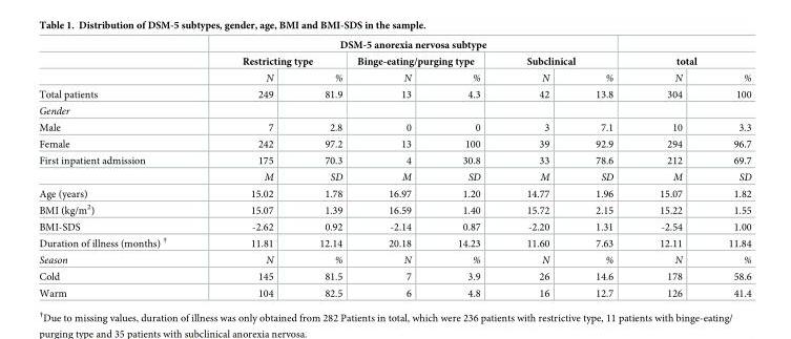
<table><thead><tr><td rowspan="3"></td><td colspan="6">DSM-5 anorexia nervosa subtype</td><td></td><td></td></tr><tr><td colspan="2">Restricting type</td><td colspan="2">Binge-eating/purging type</td><td colspan="2">Subclinical</td><td colspan="2">total</td></tr><tr><td>N</td><td>%</td><td>N</td><td>%</td><td>N</td><td>%</td><td>N</td><td>%</td></tr></thead><tbody><tr><td>Total patients</td><td>249</td><td>81.9</td><td>13</td><td>4.3</td><td>42</td><td>13.8</td><td>304</td><td>100</td></tr><tr><td colspan="9">Gender</td></tr><tr><td>Male</td><td>7</td><td>2.8</td><td>0</td><td>0</td><td>3</td><td>7.1</td><td>10</td><td>3.3</td></tr><tr><td>Female</td><td>242</td><td>97.2</td><td>13</td><td>100</td><td>39</td><td>92.9</td><td>294</td><td>96.7</td></tr><tr><td rowspan="2">First inpatient admission</td><td>175</td><td>70.3</td><td>4</td><td>30.8</td><td>33</td><td>78.6</td><td>212</td><td>69.7</td></tr><tr><td>M</td><td>SD</td><td>M</td><td>SD</td><td>M</td><td>SD</td><td>M</td><td>SD</td></tr><tr><td>Age (years)</td><td>15.02</td><td>1.78</td><td>16.97</td><td>1.20</td><td>14.77</td><td>1.96</td><td>15.07</td><td>1.82</td></tr><tr><td>BMI (kg/m<sup>2</sup>)</td><td>15.07</td><td>1.39</td><td>16.59</td><td>1.40</td><td>15.72</td><td>2.15</td><td>15.22</td><td>1.55</td></tr><tr><td>BMI-SDS</td><td>-2.62</td><td>0.92</td><td>-2.14</td><td>0.87</td><td>-2.20</td><td>1.31</td><td>-2.54</td><td>1.00</td></tr><tr><td>Duration of illness (months) <sup>†</sup></td><td>11.81</td><td>12.14</td><td>20.18</td><td>14.23</td><td>11.60</td><td>7.63</td><td>12.11</td><td>11.84</td></tr><tr><td>Season</td><td>N</td><td>%</td><td>N</td><td>%</td><td>N</td><td>%</td><td>N</td><td>%</td></tr><tr><td>Cold</td><td>145</td><td>81.5</td><td>7</td><td>3.9</td><td>26</td><td>14.6</td><td>178</td><td>58.6</td></tr><tr><td>Warm</td><td>104</td><td>82.5</td><td>6</td><td>4.8</td><td>16</td><td>12.7</td><td>126</td><td>41.4</td></tr></tbody></table>